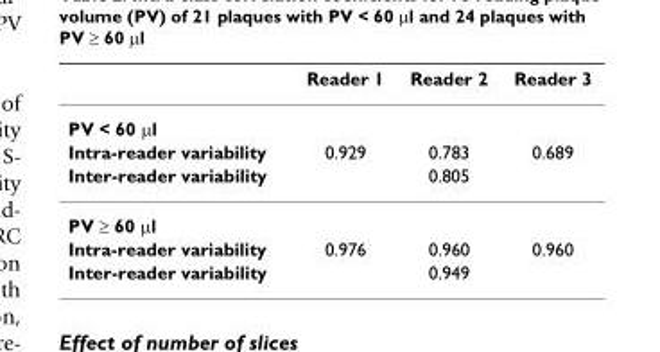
<table><thead><tr><td></td><td>Reader 1</td><td>Reader 2</td><td>Reader 3</td></tr></thead><tbody><tr><td colspan="4">PV &lt; 60 μl</td></tr><tr><td>Intra-reader variability</td><td>0.929</td><td>0.783</td><td>0.689</td></tr><tr><td>Inter-reader variability</td><td></td><td>0.805</td><td></td></tr><tr><td colspan="4">PV ≥ 60 μl</td></tr><tr><td>Intra-reader variability</td><td>0.976</td><td>0.960</td><td>0.960</td></tr><tr><td>Inter-reader variability</td><td></td><td>0.949</td><td></td></tr></tbody></table>